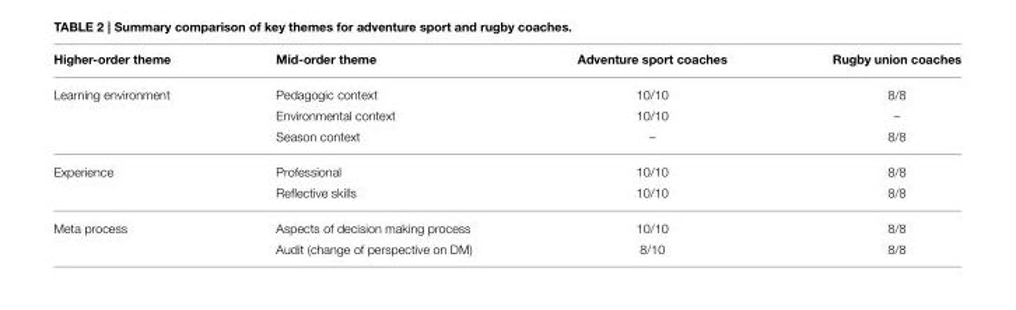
<table><thead><tr><td>Higher-order theme</td><td>Mid-order theme</td><td>Adventure sport coaches</td><td>Rugby union coaches</td></tr></thead><tbody><tr><td rowspan="3">Learning environment</td><td>Pedagogic context</td><td>10/10</td><td>8/8</td></tr><tr><td>Environmental context</td><td>10/10</td><td>–</td></tr><tr><td>Season context</td><td>–</td><td>8/8</td></tr><tr><td rowspan="2">Experience</td><td>Professional</td><td>10/10</td><td>8/8</td></tr><tr><td>Reflective skills</td><td>10/10</td><td>8/8</td></tr><tr><td rowspan="2">Meta process</td><td>Aspects of decision making process</td><td>10/10</td><td>8/8</td></tr><tr><td>Audit (change of perspective on DM)</td><td>8/10</td><td>8/8</td></tr></tbody></table>